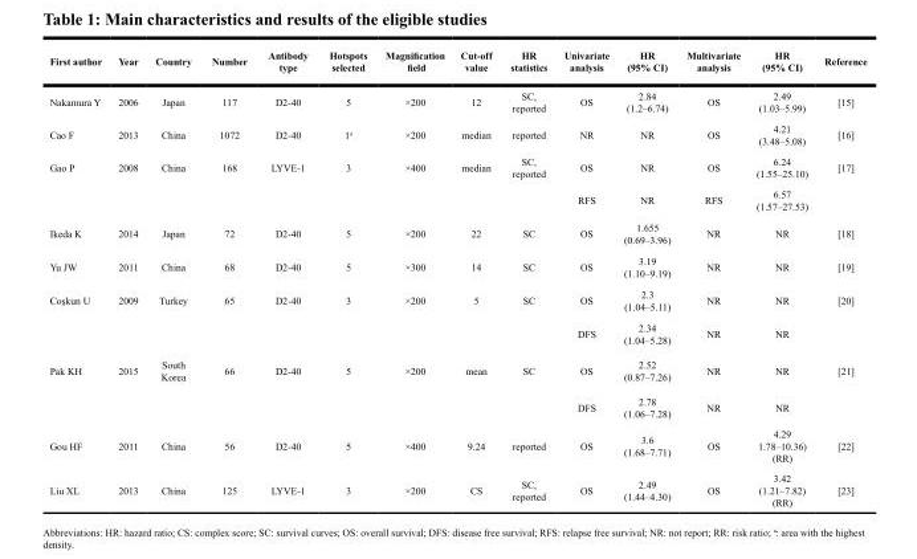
<table><thead><tr><td>First author</td><td>Year</td><td>Country</td><td>Number</td><td>Antibody type</td><td>Hotspots selected</td><td>Magnification field</td><td>Cut-off value</td><td>HR statistics</td><td>Univariate analysis</td><td>HR (95% CI)</td><td>Multivariate analysis</td><td>HR (95% CI)</td><td>Reference</td></tr></thead><tbody><tr><td>Nakamura Y</td><td>2006</td><td>Japan</td><td>117</td><td>D2-40</td><td>5</td><td>×200</td><td>12</td><td>SC, reported</td><td>OS</td><td>2.84 (1.2–6.74)</td><td>OS</td><td>2.49 (1.03–5.99)</td><td>[15]</td></tr><tr><td>Cao F</td><td>2013</td><td>China</td><td>1072</td><td>D2-40</td><td>1<sup>a</sup></td><td>×200</td><td>median</td><td>reported</td><td>NR</td><td>NR</td><td>OS</td><td>4.21 (3.48–5.08)</td><td>[16]</td></tr><tr><td rowspan="2">Gao P</td><td>2008</td><td>China</td><td>168</td><td>LYVE-1</td><td>3</td><td>×400</td><td>median</td><td>SC, reported</td><td>OS</td><td>NR</td><td>OS</td><td>6.24 (1.55–25.10)</td><td>[17]</td></tr><tr><td></td><td></td><td></td><td></td><td></td><td></td><td></td><td></td><td>RFS</td><td>NR</td><td>RFS</td><td>6.57 (1.57–27.53)</td><td></td></tr><tr><td>Ikeda K</td><td>2014</td><td>Japan</td><td>72</td><td>D2-40</td><td>5</td><td>×200</td><td>22</td><td>SC</td><td>OS</td><td>1.655 (0.69–3.96)</td><td>NR</td><td>NR</td><td>[18]</td></tr><tr><td>Yu JW</td><td>2011</td><td>China</td><td>68</td><td>D2-40</td><td>5</td><td>×300</td><td>14</td><td>SC</td><td>OS</td><td>3.19 (1.10–9.19)</td><td>NR</td><td>NR</td><td>[19]</td></tr><tr><td rowspan="2">Coşkun U</td><td>2009</td><td>Turkey</td><td>65</td><td>D2-40</td><td>3</td><td>×200</td><td>5</td><td>SC</td><td>OS</td><td>2.3 (1.04–5.11)</td><td>NR</td><td>NR</td><td>[20]</td></tr><tr><td></td><td></td><td></td><td></td><td></td><td></td><td></td><td></td><td>DFS</td><td>2.34 (1.04–5.28)</td><td>NR</td><td>NR</td><td></td></tr><tr><td rowspan="2">Pak KH</td><td>2015</td><td>South Korea</td><td>66</td><td>D2-40</td><td>5</td><td>×200</td><td>mean</td><td>SC</td><td>OS</td><td>2.52 (0.87–7.26)</td><td>NR</td><td>NR</td><td>[21]</td></tr><tr><td></td><td></td><td></td><td></td><td></td><td></td><td></td><td></td><td>DFS</td><td>2.78 (1.06–7.28)</td><td>NR</td><td>NR</td><td></td></tr><tr><td>Gou HF</td><td>2011</td><td>China</td><td>56</td><td>D2-40</td><td>5</td><td>×400</td><td>9.24</td><td>reported</td><td>OS</td><td>3.6 (1.68–7.71)</td><td>OS</td><td>4.29 1.78–10.36) (RR)</td><td>[22]</td></tr><tr><td>Liu XL</td><td>2013</td><td>China</td><td>125</td><td>LYVE-1</td><td>3</td><td>×200</td><td>CS</td><td>SC, reported</td><td>OS</td><td>2.49 (1.44–4.30)</td><td>OS</td><td>3.42 (1.21–7.82) (RR)</td><td>[23]</td></tr></tbody></table>